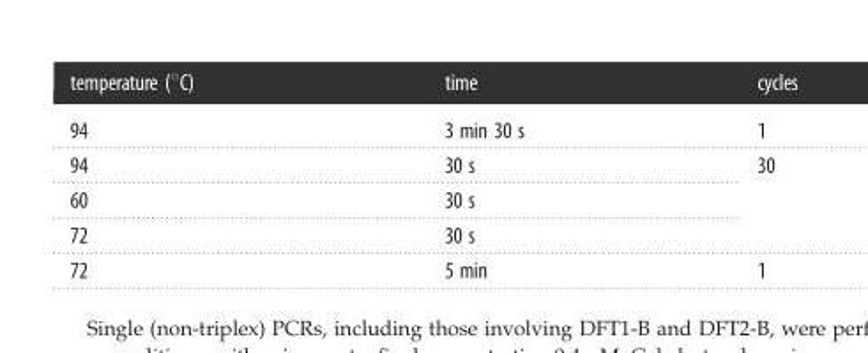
<table><thead><tr><td>temperature (°C)</td><td>time</td><td>cycles</td></tr></thead><tbody><tr><td>94</td><td>3 min 30 s</td><td>1</td></tr><tr><td>94</td><td>30 s</td><td rowspan="3">30</td></tr><tr><td>60</td><td>30 s</td></tr><tr><td>72</td><td>30 s</td></tr><tr><td>72</td><td>5 min</td><td>1</td></tr></tbody></table>